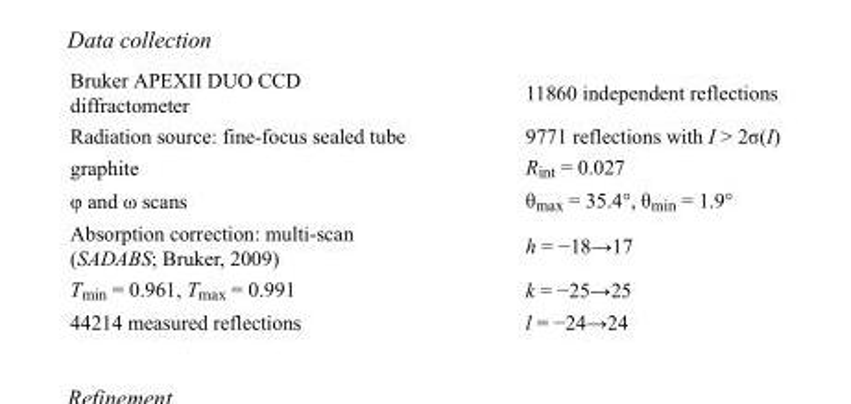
<table><tbody><tr><td>Bruker APEXII DUO CCD diffractometer</td><td>11860 independent reflections</td></tr><tr><td>Radiation source: fine-focus sealed tube</td><td>9771 reflections with I &gt; 2σ(I)</td></tr><tr><td>graphite</td><td>R<sub>int</sub> = 0.027</td></tr><tr><td>φ and ω scans</td><td>θ<sub>max</sub> = 35.4°, θ<sub>min</sub> = 1.9°</td></tr><tr><td>Absorption correction: multi-scan (SADABS; Bruker, 2009)</td><td>h = −18→17</td></tr><tr><td>T<sub>min</sub> = 0.961, T<sub>max</sub> = 0.991</td><td>k = −25→25</td></tr><tr><td>44214 measured reflections</td><td>l = −24→24</td></tr></tbody></table>